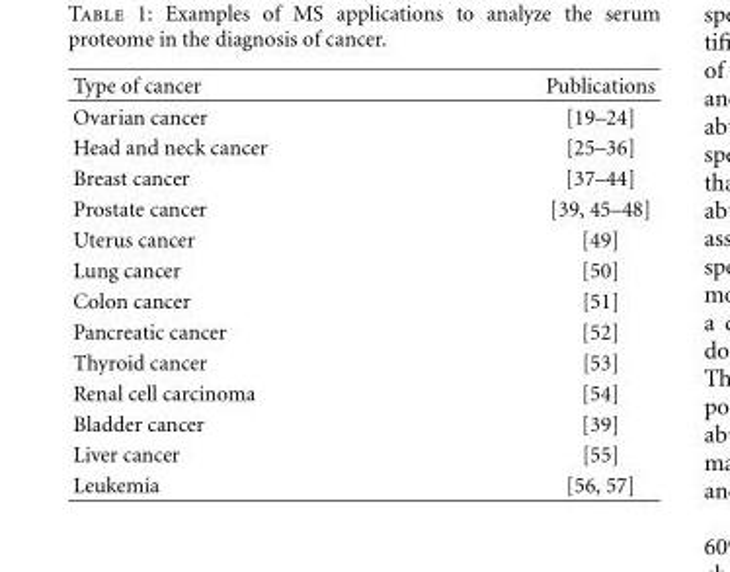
<table><thead><tr><td>Type of cancer</td><td>Publications</td></tr></thead><tbody><tr><td>Ovarian cancer</td><td>[19–24]</td></tr><tr><td>Head and neck cancer</td><td>[25–36]</td></tr><tr><td>Breast cancer</td><td>[37–44]</td></tr><tr><td>Prostate cancer</td><td>[39, 45–48]</td></tr><tr><td>Uterus cancer</td><td>[49]</td></tr><tr><td>Lung cancer</td><td>[50]</td></tr><tr><td>Colon cancer</td><td>[51]</td></tr><tr><td>Pancreatic cancer</td><td>[52]</td></tr><tr><td>Thyroid cancer</td><td>[53]</td></tr><tr><td>Renal cell carcinoma</td><td>[54]</td></tr><tr><td>Bladder cancer</td><td>[39]</td></tr><tr><td>Liver cancer</td><td>[55]</td></tr><tr><td>Leukemia</td><td>[56, 57]</td></tr></tbody></table>